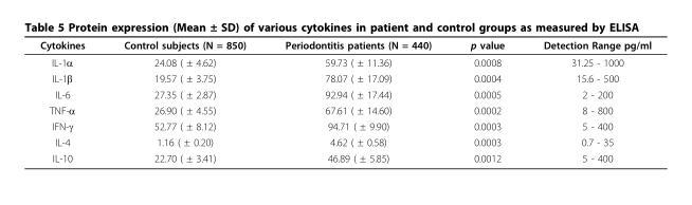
<table><thead><tr><td>Cytokines</td><td>Control subjects (N = 850)</td><td>Periodontitis patients (N = 440)</td><td>p value</td><td>Detection Range pg/ml</td></tr></thead><tbody><tr><td>IL-1α</td><td>24.08 ( ± 4.62)</td><td>59.73 ( ± 11.36)</td><td>0.0008</td><td>31.25 - 1000</td></tr><tr><td>IL-1β</td><td>19.57 ( ± 3.75)</td><td>78.07 ( ± 17.09)</td><td>0.0004</td><td>15.6 - 500</td></tr><tr><td>IL-6</td><td>27.35 ( ± 2.87)</td><td>92.94 ( ± 17.44)</td><td>0.0005</td><td>2 - 200</td></tr><tr><td>TNF-α</td><td>26.90 ( ± 4.55)</td><td>67.61 ( ± 14.60)</td><td>0.0002</td><td>8 - 800</td></tr><tr><td>IFN-γ</td><td>52.77 ( ± 8.12)</td><td>94.71 ( ± 9.90)</td><td>0.0003</td><td>5 - 400</td></tr><tr><td>IL-4</td><td>1.16 ( ± 0.20)</td><td>4.62 ( ± 0.58)</td><td>0.0003</td><td>0.7 - 35</td></tr><tr><td>IL-10</td><td>22.70 ( ± 3.41)</td><td>46.89 ( ± 5.85)</td><td>0.0012</td><td>5 - 400</td></tr></tbody></table>